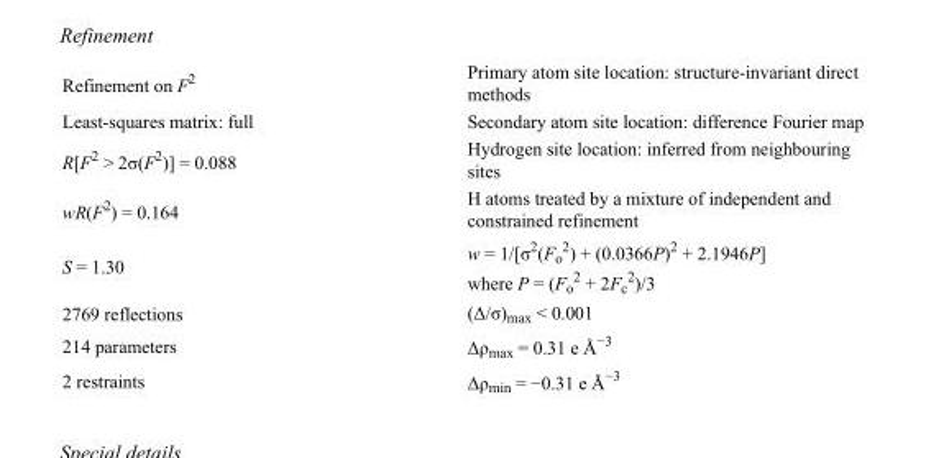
<table><tbody><tr><td>Refinement on F<sup>2</sup></td><td>Primary atom site location: structure-invariant direct methods</td></tr><tr><td>Least-squares matrix: full</td><td>Secondary atom site location: difference Fourier map</td></tr><tr><td>R[F<sup>2</sup> &gt; 2σ(F<sup>2</sup>)] = 0.088</td><td>Hydrogen site location: inferred from neighbouring sites</td></tr><tr><td>wR(F<sup>2</sup>) = 0.164</td><td>H atoms treated by a mixture of independent and constrained refinement</td></tr><tr><td>S = 1.30</td><td>w = 1/[σ<sup>2</sup>(F<sub>o</sub> <sup>2</sup>) + (0.0366P)<sup>2</sup> + 2.1946P] where P = (F<sub>o</sub> <sup>2</sup> + 2F<sub>c</sub> <sup>2</sup>)/3</td></tr><tr><td>2769 reflections</td><td>(Δ/σ)<sub>max</sub> &lt; 0.001</td></tr><tr><td>214 parameters</td><td>Δρ<sub>max</sub> = 0.31 e Å<sup>−3</sup></td></tr><tr><td>2 restraints</td><td>Δρ<sub>min</sub> = −0.31 e Å<sup>−3</sup></td></tr></tbody></table>